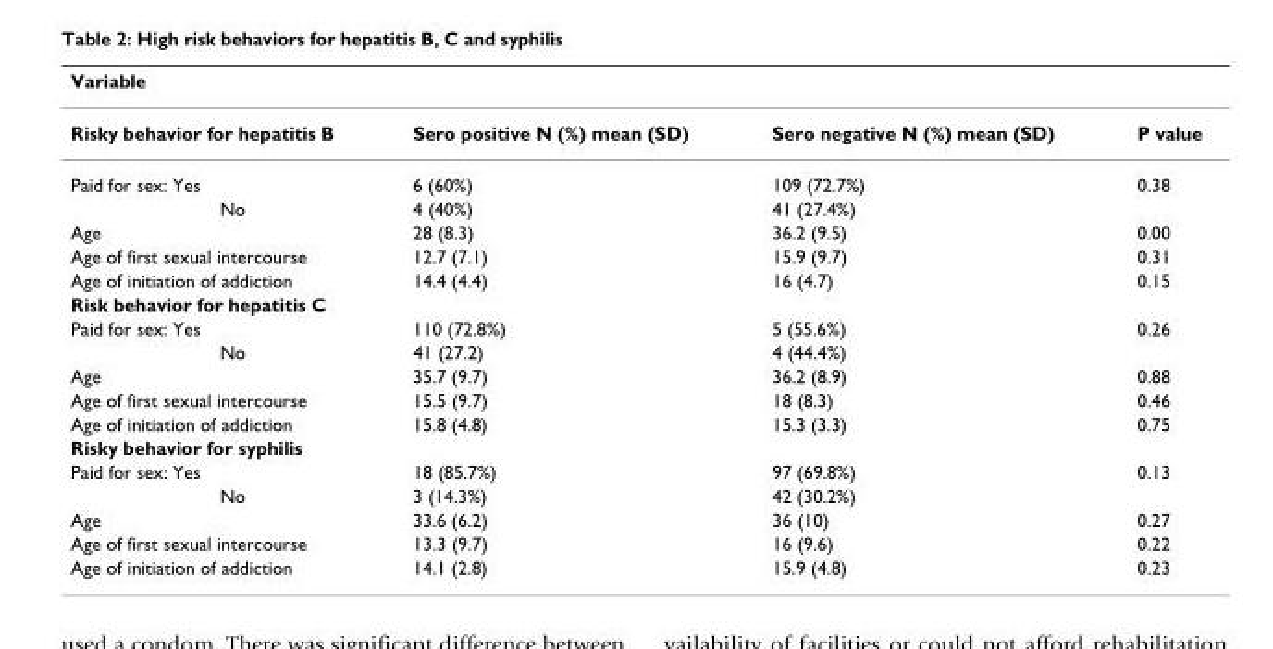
<table><thead><tr><td colspan="4">Variable</td></tr><tr><td>Risky behavior for hepatitis B</td><td>Sero positive N (%) mean (SD)</td><td>Sero negative N (%) mean (SD)</td><td>P value</td></tr></thead><tbody><tr><td>Paid for sex: Yes</td><td>6 (60%)</td><td>109 (72.7%)</td><td>0.38</td></tr><tr><td>No</td><td>4 (40%)</td><td>41 (27.4%)</td><td></td></tr><tr><td>Age</td><td>28 (8.3)</td><td>36.2 (9.5)</td><td>0.00</td></tr><tr><td>Age of first sexual intercourse</td><td>12.7 (7.1)</td><td>15.9 (9.7)</td><td>0.31</td></tr><tr><td>Age of initiation of addiction</td><td>14.4 (4.4)</td><td>16 (4.7)</td><td>0.15</td></tr><tr><td colspan="4">Risk behavior for hepatitis C</td></tr><tr><td>Paid for sex: Yes</td><td>110 (72.8%)</td><td>5 (55.6%)</td><td>0.26</td></tr><tr><td>No</td><td>41 (27.2)</td><td>4 (44.4%)</td><td></td></tr><tr><td>Age</td><td>35.7 (9.7)</td><td>36.2 (8.9)</td><td>0.88</td></tr><tr><td>Age of first sexual intercourse</td><td>15.5 (9.7)</td><td>18 (8.3)</td><td>0.46</td></tr><tr><td>Age of initiation of addiction</td><td>15.8 (4.8)</td><td>15.3 (3.3)</td><td>0.75</td></tr><tr><td colspan="4">Risky behavior for syphilis</td></tr><tr><td>Paid for sex: Yes</td><td>18 (85.7%)</td><td>97 (69.8%)</td><td>0.13</td></tr><tr><td>No</td><td>3 (14.3%)</td><td>42 (30.2%)</td><td></td></tr><tr><td>Age</td><td>33.6 (6.2)</td><td>36 (10)</td><td>0.27</td></tr><tr><td>Age of first sexual intercourse</td><td>13.3 (9.7)</td><td>16 (9.6)</td><td>0.22</td></tr><tr><td>Age of initiation of addiction</td><td>14.1 (2.8)</td><td>15.9 (4.8)</td><td>0.23</td></tr></tbody></table>